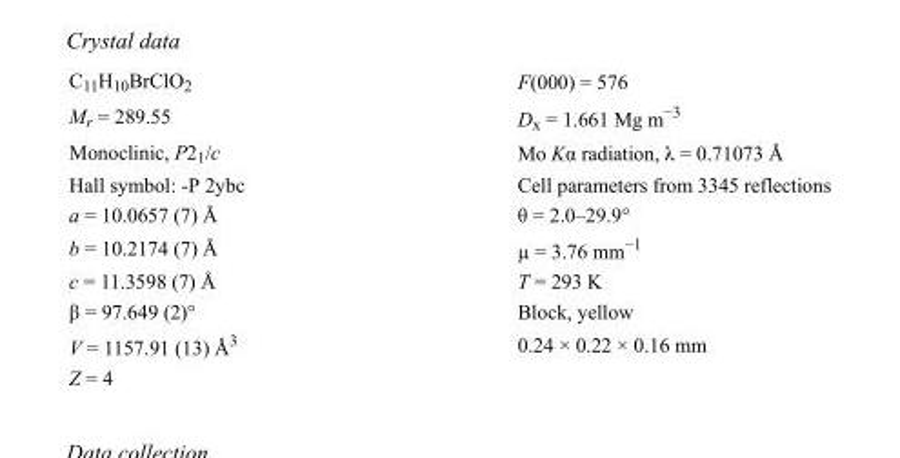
<table><tbody><tr><td>C<sub>11</sub>H<sub>10</sub>BrClO<sub>2</sub></td><td>F(000) = 576</td></tr><tr><td>M<sub>r</sub> = 289.55</td><td>D<sub>x</sub> = 1.661 Mg m<sup>−3</sup></td></tr><tr><td>Monoclinic, P2<sub>1</sub>/c</td><td>Mo Kα radiation, λ = 0.71073 Å</td></tr><tr><td>Hall symbol: -P 2ybc</td><td>Cell parameters from 3345 reflections</td></tr><tr><td>a = 10.0657 (7) Å</td><td>θ = 2.0–29.9°</td></tr><tr><td>b = 10.2174 (7) Å</td><td>µ = 3.76 mm<sup>−1</sup></td></tr><tr><td>c = 11.3598 (7) Å</td><td>T = 293 K</td></tr><tr><td>β = 97.649 (2)°</td><td>Block, yellow</td></tr><tr><td>V = 1157.91 (13) Å<sup>3</sup></td><td>0.24 × 0.22 × 0.16 mm</td></tr><tr><td>Z = 4</td><td></td></tr></tbody></table>